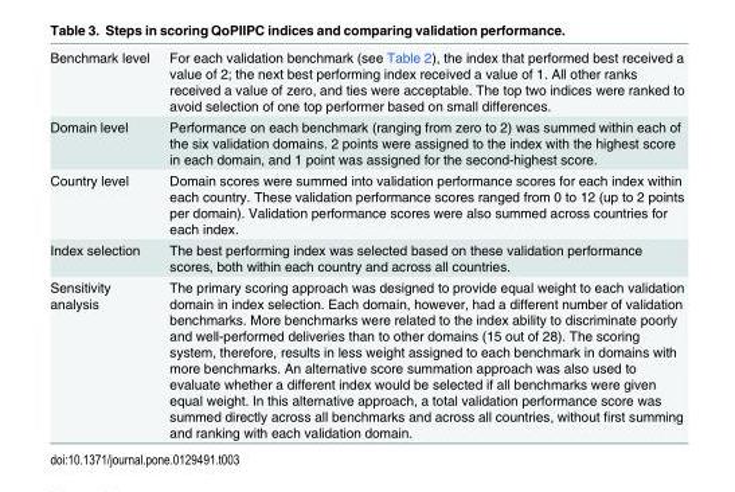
<table><tbody><tr><td>Benchmark level</td><td>For each validation benchmark (see Table 2), the index that performed best received a value of 2; the next best performing index received a value of 1. All other ranks received a value of zero, and ties were acceptable. The top two indices were ranked to avoid selection of one top performer based on small differences.</td></tr><tr><td>Domain level</td><td>Performance on each benchmark (ranging from zero to 2) was summed within each of the six validation domains. 2 points were assigned to the index with the highest score in each domain, and 1 point was assigned for the second-highest score.</td></tr><tr><td>Country level</td><td>Domain scores were summed into validation performance scores for each index within each country. These validation performance scores ranged from 0 to 12 (up to 2 points per domain). Validation performance scores were also summed across countries for each index.</td></tr><tr><td>Index selection</td><td>The best performing index was selected based on these validation performance scores, both within each country and across all countries.</td></tr><tr><td>Sensitivity analysis</td><td>The primary scoring approach was designed to provide equal weight to each validation domain in index selection. Each domain, however, had a different number of validation benchmarks. More benchmarks were related to the index ability to discriminate poorly and well-performed deliveries than to other domains (15 out of 28). The scoring system, therefore, results in less weight assigned to each benchmark in domains with more benchmarks. An alternative score summation approach was also used to evaluate whether a different index would be selected if all benchmarks were given equal weight. In this alternative approach, a total validation performance score was summed directly across all benchmarks and across all countries, without first summing and ranking with each validation domain.</td></tr></tbody></table>